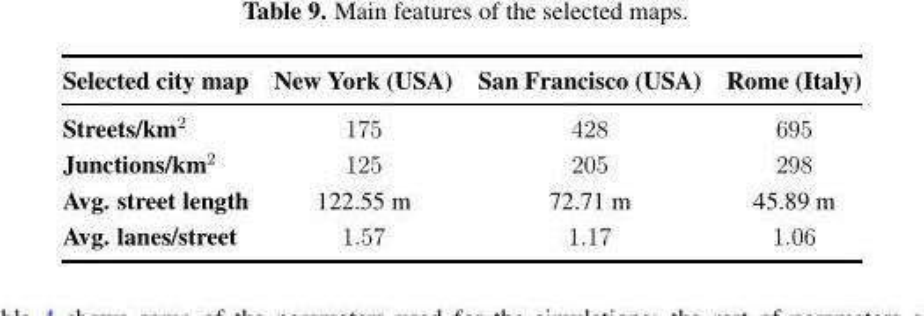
<table><thead><tr><td>Selected city map</td><td>New York (USA)</td><td>San Francisco (USA)</td><td>Rome (Italy)</td></tr></thead><tbody><tr><td>Streets/km<sup>2</sup></td><td>175</td><td>428</td><td>695</td></tr><tr><td>Junctions/km<sup>2</sup></td><td>125</td><td>205</td><td>298</td></tr><tr><td>Avg. street length</td><td>122.55 m</td><td>72.71 m</td><td>45.89 m</td></tr><tr><td>Avg. lanes/street</td><td>1.57</td><td>1.17</td><td>1.06</td></tr></tbody></table>